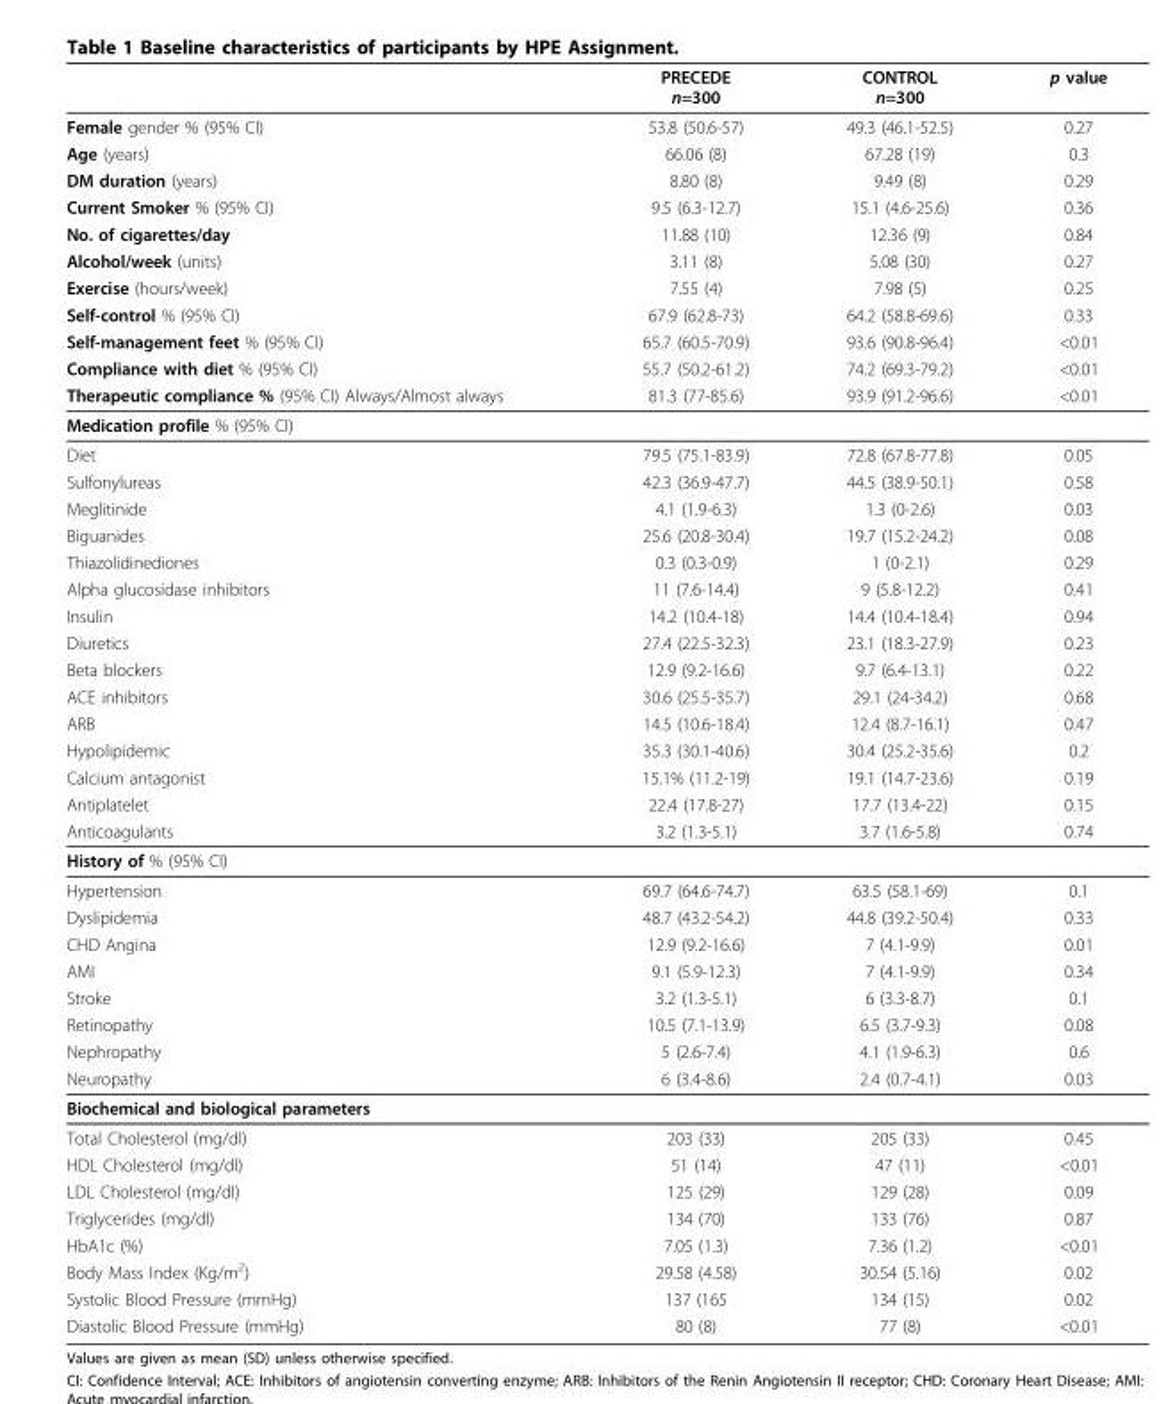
<table><thead><tr><td></td><td>PRECEDE n=300</td><td>CONTROL n=300</td><td>p value</td></tr></thead><tbody><tr><td>Female gender % (95% CI)</td><td>53.8 (50.6-57)</td><td>49.3 (46.1-52.5)</td><td>0.27</td></tr><tr><td>Age (years)</td><td>66.06 (8)</td><td>67.28 (19)</td><td>0.3</td></tr><tr><td>DM duration (years)</td><td>8.80 (8)</td><td>9.49 (8)</td><td>0.29</td></tr><tr><td>Current Smoker % (95% CI)</td><td>9.5 (6.3-12.7)</td><td>15.1 (4.6-25.6)</td><td>0.36</td></tr><tr><td>No. of cigarettes/day</td><td>11.88 (10)</td><td>12.36 (9)</td><td>0.84</td></tr><tr><td>Alcohol/week (units)</td><td>3.11 (8)</td><td>5.08 (30)</td><td>0.27</td></tr><tr><td>Exercise (hours/week)</td><td>7.55 (4)</td><td>7.98 (5)</td><td>0.25</td></tr><tr><td>Self-control % (95% CI)</td><td>67.9 (62.8-73)</td><td>64.2 (58.8-69.6)</td><td>0.33</td></tr><tr><td>Self-management feet % (95% CI)</td><td>65.7 (60.5-70.9)</td><td>93.6 (90.8-96.4)</td><td>&lt;0.01</td></tr><tr><td>Compliance with diet % (95% CI)</td><td>55.7 (50.2-61.2)</td><td>74.2 (69.3-79.2)</td><td>&lt;0.01</td></tr><tr><td>Therapeutic compliance % (95% CI) Always/Almost always</td><td>81.3 (77-85.6)</td><td>93.9 (91.2-96.6)</td><td>&lt;0.01</td></tr><tr><td colspan="4">Medication profile % (95% CI)</td></tr><tr><td>Diet</td><td>79.5 (75.1-83.9)</td><td>72.8 (67.8-77.8)</td><td>0.05</td></tr><tr><td>Sulfonylureas</td><td>42.3 (36.9-47.7)</td><td>44.5 (38.9-50.1)</td><td>0.58</td></tr><tr><td>Meglitinide</td><td>4.1 (1.9-6.3)</td><td>1.3 (0-2.6)</td><td>0.03</td></tr><tr><td>Biguanides</td><td>25.6 (20.8-30.4)</td><td>19.7 (15.2-24.2)</td><td>0.08</td></tr><tr><td>Thiazolidinediones</td><td>0.3 (0.3-0.9)</td><td>1 (0-2.1)</td><td>0.29</td></tr><tr><td>Alpha glucosidase inhibitors</td><td>11 (7.6-14.4)</td><td>9 (5.8-12.2)</td><td>0.41</td></tr><tr><td>Insulin</td><td>14.2 (10.4-18)</td><td>14.4 (10.4-18.4)</td><td>0.94</td></tr><tr><td>Diuretics</td><td>27.4 (22.5-32.3)</td><td>23.1 (18.3-27.9)</td><td>0.23</td></tr><tr><td>Beta blockers</td><td>12.9 (9.2-16.6)</td><td>9.7 (6.4-13.1)</td><td>0.22</td></tr><tr><td>ACE inhibitors</td><td>30.6 (25.5-35.7)</td><td>29.1 (24-34.2)</td><td>0.68</td></tr><tr><td>ARB</td><td>14.5 (10.6-18.4)</td><td>12.4 (8.7-16.1)</td><td>0.47</td></tr><tr><td>Hypolipidemic</td><td>35.3 (30.1-40.6)</td><td>30.4 (25.2-35.6)</td><td>0.2</td></tr><tr><td>Calcium antagonist</td><td>15.1% (11.2-19)</td><td>19.1 (14.7-23.6)</td><td>0.19</td></tr><tr><td>Antiplatelet</td><td>22.4 (17.8-27)</td><td>17.7 (13.4-22)</td><td>0.15</td></tr><tr><td>Anticoagulants</td><td>3.2 (1.3-5.1)</td><td>3.7 (1.6-5.8)</td><td>0.74</td></tr><tr><td colspan="4">History of % (95% CI)</td></tr><tr><td>Hypertension</td><td>69.7 (64.6-74.7)</td><td>63.5 (58.1-69)</td><td>0.1</td></tr><tr><td>Dyslipidemia</td><td>48.7 (43.2-54.2)</td><td>44.8 (39.2-50.4)</td><td>0.33</td></tr><tr><td>CHD Angina</td><td>12.9 (9.2-16.6)</td><td>7 (4.1-9.9)</td><td>0.01</td></tr><tr><td>AMI</td><td>9.1 (5.9-12.3)</td><td>7 (4.1-9.9)</td><td>0.34</td></tr><tr><td>Stroke</td><td>3.2 (1.3-5.1)</td><td>6 (3.3-8.7)</td><td>0.1</td></tr><tr><td>Retinopathy</td><td>10.5 (7.1-13.9)</td><td>6.5 (3.7-9.3)</td><td>0.08</td></tr><tr><td>Nephropathy</td><td>5 (2.6-7.4)</td><td>4.1 (1.9-6.3)</td><td>0.6</td></tr><tr><td>Neuropathy</td><td>6 (3.4-8.6)</td><td>2.4 (0.7-4.1)</td><td>0.03</td></tr><tr><td colspan="4">Biochemical and biological parameters</td></tr><tr><td>Total Cholesterol (mg/dl)</td><td>203 (33)</td><td>205 (33)</td><td>0.45</td></tr><tr><td>HDL Cholesterol (mg/dl)</td><td>51 (14)</td><td>47 (11)</td><td>&lt;0.01</td></tr><tr><td>LDL Cholesterol (mg/dl)</td><td>125 (29)</td><td>129 (28)</td><td>0.09</td></tr><tr><td>Triglycerides (mg/dl)</td><td>134 (70)</td><td>133 (76)</td><td>0.87</td></tr><tr><td>HbA1c (%)</td><td>7.05 (1.3)</td><td>7.36 (1.2)</td><td>&lt;0.01</td></tr><tr><td>Body Mass Index (Kg/m<sup>2</sup>)</td><td>29.58 (4.58)</td><td>30.54 (5.16)</td><td>0.02</td></tr><tr><td>Systolic Blood Pressure (mmHg)</td><td>137 (165</td><td>134 (15)</td><td>0.02</td></tr><tr><td>Diastolic Blood Pressure (mmHg)</td><td>80 (8)</td><td>77 (8)</td><td>&lt;0.01</td></tr></tbody></table>